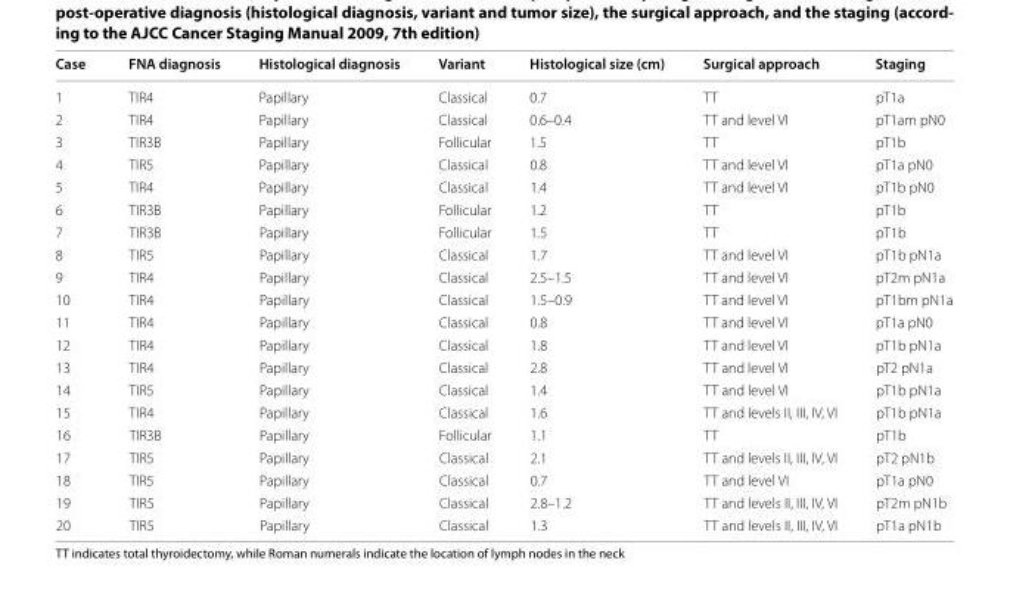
<table><thead><tr><td>Case</td><td>FNA diagnosis</td><td>Histological diagnosis</td><td>Variant</td><td>Histological size (cm)</td><td>Surgical approach</td><td>Staging</td></tr></thead><tbody><tr><td>1</td><td>TIR4</td><td>Papillary</td><td>Classical</td><td>0.7</td><td>TT</td><td>pT1a</td></tr><tr><td>2</td><td>TIR4</td><td>Papillary</td><td>Classical</td><td>0.6–0.4</td><td>TT and level VI</td><td>pT1am pN0</td></tr><tr><td>3</td><td>TIR3B</td><td>Papillary</td><td>Follicular</td><td>1.5</td><td>TT</td><td>pT1b</td></tr><tr><td>4</td><td>TIR5</td><td>Papillary</td><td>Classical</td><td>0.8</td><td>TT and level VI</td><td>pT1a pN0</td></tr><tr><td>5</td><td>TIR4</td><td>Papillary</td><td>Classical</td><td>1.4</td><td>TT and level VI</td><td>pT1b pN0</td></tr><tr><td>6</td><td>TIR3B</td><td>Papillary</td><td>Follicular</td><td>1.2</td><td>TT</td><td>pT1b</td></tr><tr><td>7</td><td>TIR3B</td><td>Papillary</td><td>Follicular</td><td>1.5</td><td>TT</td><td>pT1b</td></tr><tr><td>8</td><td>TIR5</td><td>Papillary</td><td>Classical</td><td>1.7</td><td>TT and level VI</td><td>pT1b pN1a</td></tr><tr><td>9</td><td>TIR4</td><td>Papillary</td><td>Classical</td><td>2.5–1.5</td><td>TT and level VI</td><td>pT2m pN1a</td></tr><tr><td>10</td><td>TIR4</td><td>Papillary</td><td>Classical</td><td>1.5–0.9</td><td>TT and level VI</td><td>pT1bm pN1a</td></tr><tr><td>11</td><td>TIR4</td><td>Papillary</td><td>Classical</td><td>0.8</td><td>TT and level VI</td><td>pT1a pN0</td></tr><tr><td>12</td><td>TIR4</td><td>Papillary</td><td>Classical</td><td>1.8</td><td>TT and level VI</td><td>pT1b pN1a</td></tr><tr><td>13</td><td>TIR4</td><td>Papillary</td><td>Classical</td><td>2.8</td><td>TT and level VI</td><td>pT2 pN1a</td></tr><tr><td>14</td><td>TIR5</td><td>Papillary</td><td>Classical</td><td>1.4</td><td>TT and level VI</td><td>pT1b pN1a</td></tr><tr><td>15</td><td>TIR4</td><td>Papillary</td><td>Classical</td><td>1.6</td><td>TT and levels II, III, IV, VI</td><td>pT1b pN1a</td></tr><tr><td>16</td><td>TIR3B</td><td>Papillary</td><td>Follicular</td><td>1.1</td><td>TT</td><td>pT1b</td></tr><tr><td>17</td><td>TIR5</td><td>Papillary</td><td>Classical</td><td>2.1</td><td>TT and levels II, III, IV, VI</td><td>pT2 pN1b</td></tr><tr><td>18</td><td>TIR5</td><td>Papillary</td><td>Classical</td><td>0.7</td><td>TT and level VI</td><td>pT1a pN0</td></tr><tr><td>19</td><td>TIR5</td><td>Papillary</td><td>Classical</td><td>2.8–1.2</td><td>TT and levels II, III, IV, VI</td><td>pT2m pN1b</td></tr><tr><td>20</td><td>TIR5</td><td>Papillary</td><td>Classical</td><td>1.3</td><td>TT and levels II, III, IV, VI</td><td>pT1a pN1b</td></tr></tbody></table>